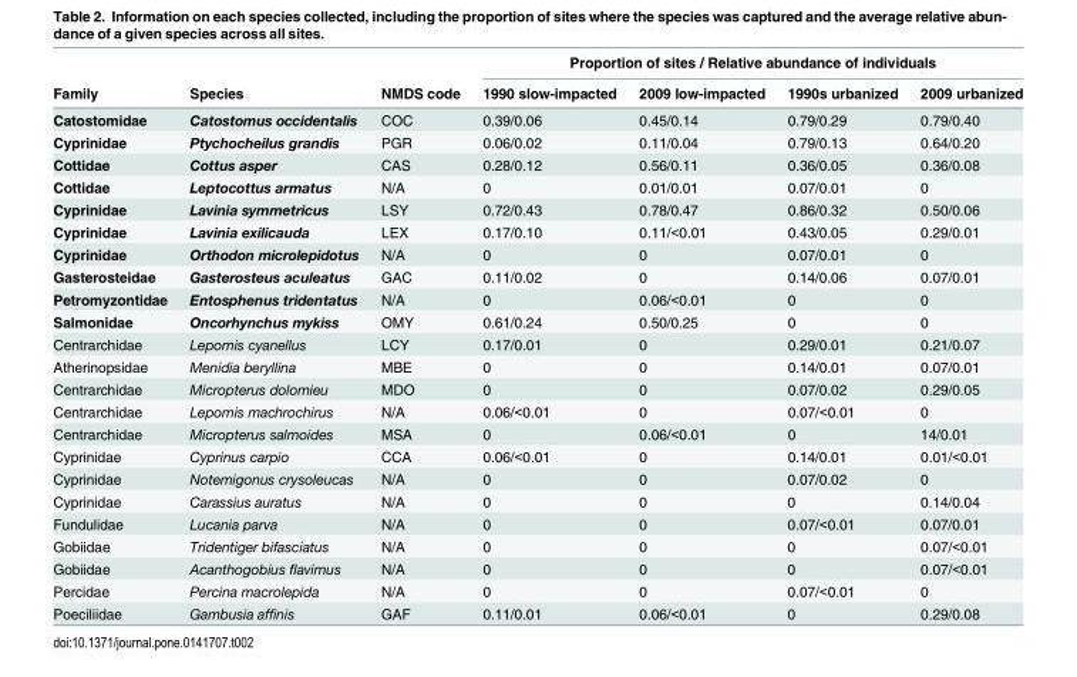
<table><thead><tr><td rowspan="2">Family</td><td rowspan="2">Species</td><td rowspan="2">NMDS code</td><td colspan="4">Proportion of sites / Relative abundance of individuals</td></tr><tr><td>1990 slow-impacted</td><td>2009 low-impacted</td><td>1990s urbanized</td><td>2009 urbanized</td></tr></thead><tbody><tr><td>Catostomidae</td><td>Catostomus occidentalis</td><td>COC</td><td>0.39/0.06</td><td>0.45/0.14</td><td>0.79/0.29</td><td>0.79/0.40</td></tr><tr><td>Cyprinidae</td><td>Ptychocheilus grandis</td><td>PGR</td><td>0.06/0.02</td><td>0.11/0.04</td><td>0.79/0.13</td><td>0.64/0.20</td></tr><tr><td>Cottidae</td><td>Cottus asper</td><td>CAS</td><td>0.28/0.12</td><td>0.56/0.11</td><td>0.36/0.05</td><td>0.36/0.08</td></tr><tr><td>Cottidae</td><td>Leptocottus armatus</td><td>N/A</td><td>0</td><td>0.01/0.01</td><td>0.07/0.01</td><td>0</td></tr><tr><td>Cyprinidae</td><td>Lavinia symmetricus</td><td>LSY</td><td>0.72/0.43</td><td>0.78/0.47</td><td>0.86/0.32</td><td>0.50/0.06</td></tr><tr><td>Cyprinidae</td><td>Lavinia exilicauda</td><td>LEX</td><td>0.17/0.10</td><td>0.11/&lt;0.01</td><td>0.43/0.05</td><td>0.29/0.01</td></tr><tr><td>Cyprinidae</td><td>Orthodon microlepidotus</td><td>N/A</td><td>0</td><td>0</td><td>0.07/0.01</td><td>0</td></tr><tr><td>Gasterosteidae</td><td>Gasterosteus aculeatus</td><td>GAC</td><td>0.11/0.02</td><td>0</td><td>0.14/0.06</td><td>0.07/0.01</td></tr><tr><td>Petromyzontidae</td><td>Entosphenus tridentatus</td><td>N/A</td><td>0</td><td>0.06/&lt;0.01</td><td>0</td><td>0</td></tr><tr><td>Salmonidae</td><td>Oncorhynchus mykiss</td><td>OMY</td><td>0.61/0.24</td><td>0.50/0.25</td><td>0</td><td>0</td></tr><tr><td>Centrarchidae</td><td>Lepomis cyanellus</td><td>LCY</td><td>0.17/0.01</td><td>0</td><td>0.29/0.01</td><td>0.21/0.07</td></tr><tr><td>Atherinopsidae</td><td>Menidia beryllina</td><td>MBE</td><td>0</td><td>0</td><td>0.14/0.01</td><td>0.07/0.01</td></tr><tr><td>Centrarchidae</td><td>Micropterus dolomieu</td><td>MDO</td><td>0</td><td>0</td><td>0.07/0.02</td><td>0.29/0.05</td></tr><tr><td>Centrarchidae</td><td>Lepomis machrochirus</td><td>N/A</td><td>0.06/&lt;0.01</td><td>0</td><td>0.07/&lt;0.01</td><td>0</td></tr><tr><td>Centrarchidae</td><td>Micropterus salmoides</td><td>MSA</td><td>0</td><td>0.06/&lt;0.01</td><td>0</td><td>14/0.01</td></tr><tr><td>Cyprinidae</td><td>Cyprinus carpio</td><td>CCA</td><td>0.06/&lt;0.01</td><td>0</td><td>0.14/0.01</td><td>0.01/&lt;0.01</td></tr><tr><td>Cyprinidae</td><td>Notemigonus crysoleucas</td><td>N/A</td><td>0</td><td>0</td><td>0.07/0.02</td><td>0</td></tr><tr><td>Cyprinidae</td><td>Carassius auratus</td><td>N/A</td><td>0</td><td>0</td><td>0</td><td>0.14/0.04</td></tr><tr><td>Fundulidae</td><td>Lucania parva</td><td>N/A</td><td>0</td><td>0</td><td>0.07/&lt;0.01</td><td>0.07/0.01</td></tr><tr><td>Gobiidae</td><td>Tridentiger bifasciatus</td><td>N/A</td><td>0</td><td>0</td><td>0</td><td>0.07/&lt;0.01</td></tr><tr><td>Gobiidae</td><td>Acanthogobius flavimus</td><td>N/A</td><td>0</td><td>0</td><td>0</td><td>0.07/&lt;0.01</td></tr><tr><td>Percidae</td><td>Percina macrolepida</td><td>N/A</td><td>0</td><td>0</td><td>0.07/&lt;0.01</td><td>0</td></tr><tr><td>Poeciliidae</td><td>Gambusia affinis</td><td>GAF</td><td>0.11/0.01</td><td>0.06/&lt;0.01</td><td>0</td><td>0.29/0.08</td></tr></tbody></table>